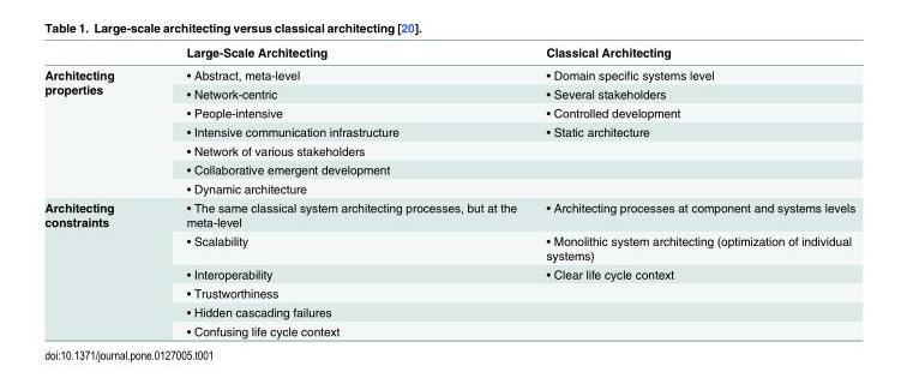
<table><thead><tr><td></td><td>Large-Scale Architecting</td><td>Classical Architecting</td></tr></thead><tbody><tr><td rowspan="7">Architecting properties</td><td>• Abstract, meta-level</td><td>• Domain specific systems level</td></tr><tr><td>• Network-centric</td><td>• Several stakeholders</td></tr><tr><td>• People-intensive</td><td>• Controlled development</td></tr><tr><td>• Intensive communication infrastructure</td><td>• Static architecture</td></tr><tr><td>• Network of various stakeholders</td><td></td></tr><tr><td>• Collaborative emergent development</td><td></td></tr><tr><td>• Dynamic architecture</td><td></td></tr><tr><td rowspan="6">Architecting constraints</td><td>• The same classical system architecting processes, but at the meta-level</td><td>• Architecting processes at component and systems levels</td></tr><tr><td>• Scalability</td><td>• Monolithic system architecting (optimization of individual systems)</td></tr><tr><td>• Interoperability</td><td>• Clear life cycle context</td></tr><tr><td>• Trustworthiness</td><td></td></tr><tr><td>• Hidden cascading failures</td><td></td></tr><tr><td>• Confusing life cycle context</td><td></td></tr></tbody></table>